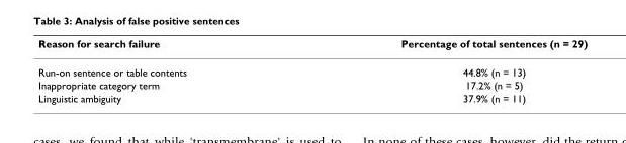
<table><thead><tr><td>Reason for search failure</td><td>Percentage of total sentences (n = 29)</td></tr></thead><tbody><tr><td>Run-on sentence or table contents</td><td>44.8% (n = 13)</td></tr><tr><td>Inappropriate category term</td><td>17.2% (n = 5)</td></tr><tr><td>Linguistic ambiguity</td><td>37.9% (n = 11)</td></tr></tbody></table>